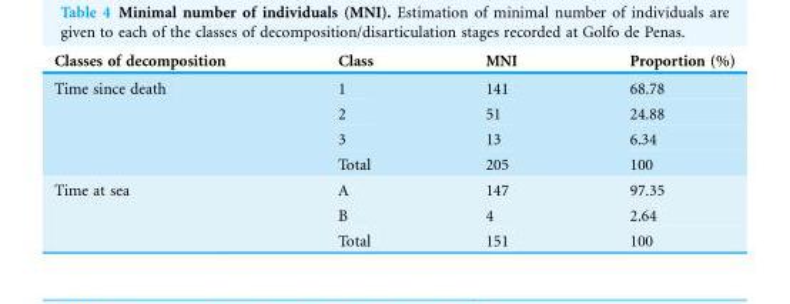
<table><thead><tr><td>Classes of decomposition</td><td>Class</td><td>MNI</td><td>Proportion (%)</td></tr></thead><tbody><tr><td rowspan="4">Time since death</td><td>1</td><td>141</td><td>68.78</td></tr><tr><td>2</td><td>51</td><td>24.88</td></tr><tr><td>3</td><td>13</td><td>6.34</td></tr><tr><td>Total</td><td>205</td><td>100</td></tr><tr><td rowspan="3">Time at sea</td><td>A</td><td>147</td><td>97.35</td></tr><tr><td>B</td><td>4</td><td>2.64</td></tr><tr><td>Total</td><td>151</td><td>100</td></tr></tbody></table>